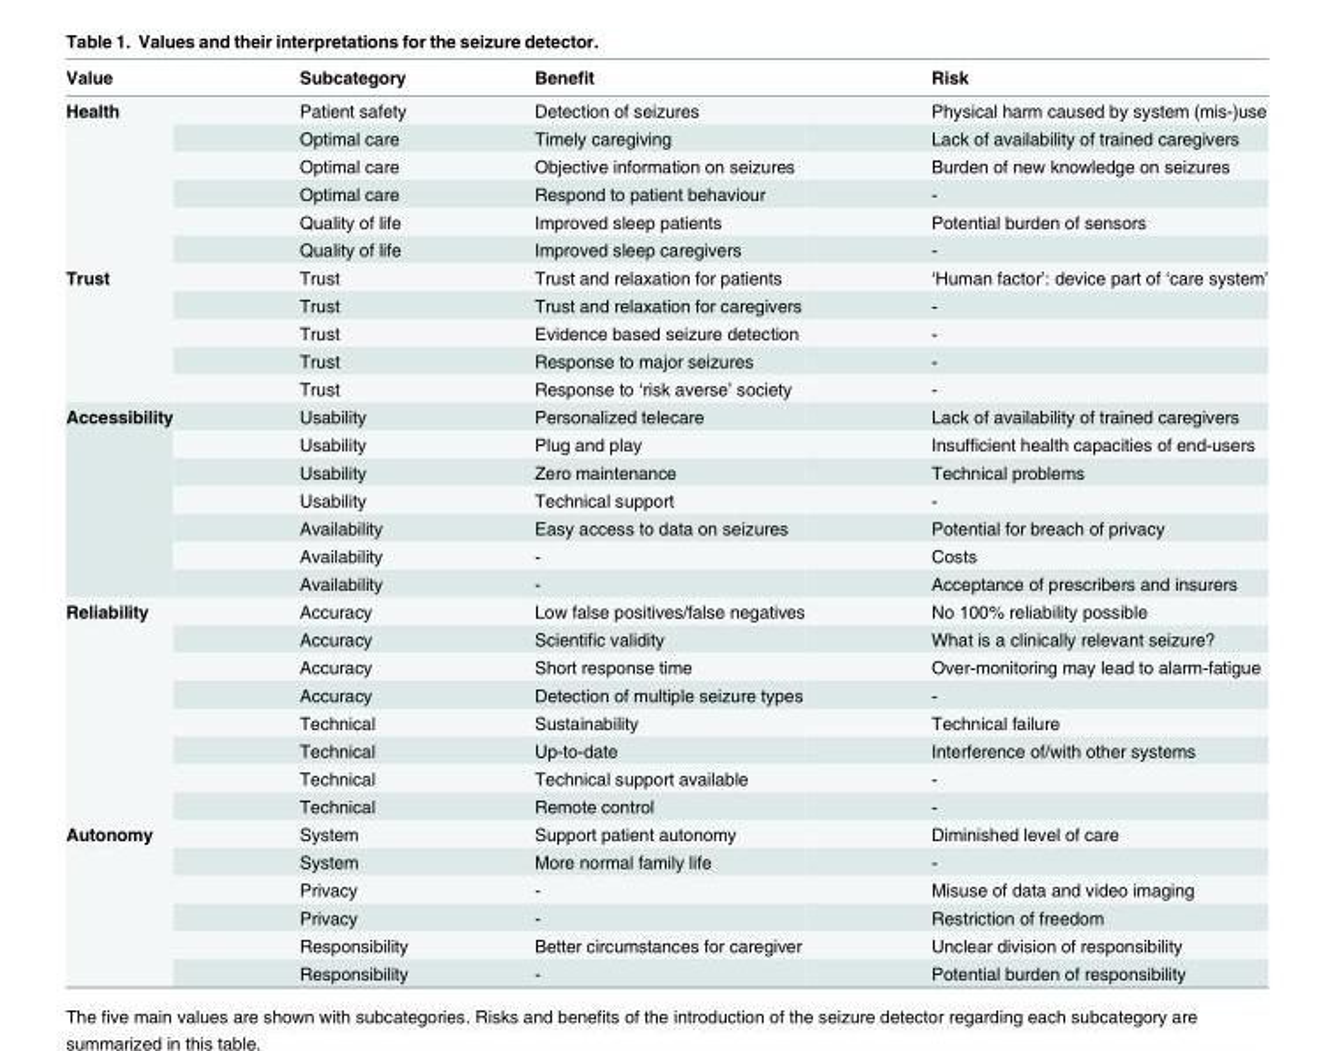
<table><thead><tr><td>Value</td><td>Subcategory</td><td>Benefit</td><td>Risk</td></tr></thead><tbody><tr><td rowspan="6">Health</td><td>Patient safety</td><td>Detection of seizures</td><td>Physical harm caused by system (mis-)use</td></tr><tr><td>Optimal care</td><td>Timely caregiving</td><td>Lack of availability of trained caregivers</td></tr><tr><td>Optimal care</td><td>Objective information on seizures</td><td>Burden of new knowledge on seizures</td></tr><tr><td>Optimal care</td><td>Respond to patient behaviour</td><td>-</td></tr><tr><td>Quality of life</td><td>Improved sleep patients</td><td>Potential burden of sensors</td></tr><tr><td>Quality of life</td><td>Improved sleep caregivers</td><td>-</td></tr><tr><td rowspan="5">Trust</td><td>Trust</td><td>Trust and relaxation for patients</td><td>‘Human factor’: device part of ‘care system’</td></tr><tr><td>Trust</td><td>Trust and relaxation for caregivers</td><td>-</td></tr><tr><td>Trust</td><td>Evidence based seizure detection</td><td>-</td></tr><tr><td>Trust</td><td>Response to major seizures</td><td>-</td></tr><tr><td>Trust</td><td>Response to ‘risk averse’ society</td><td>-</td></tr><tr><td rowspan="7">Accessibility</td><td>Usability</td><td>Personalized telecare</td><td>Lack of availability of trained caregivers</td></tr><tr><td>Usability</td><td>Plug and play</td><td>Insufficient health capacities of end-users</td></tr><tr><td>Usability</td><td>Zero maintenance</td><td>Technical problems</td></tr><tr><td>Usability</td><td>Technical support</td><td>-</td></tr><tr><td>Availability</td><td>Easy access to data on seizures</td><td>Potential for breach of privacy</td></tr><tr><td>Availability</td><td>-</td><td>Costs</td></tr><tr><td>Availability</td><td>-</td><td>Acceptance of prescribers and insurers</td></tr><tr><td rowspan="8">Reliability</td><td>Accuracy</td><td>Low false positives/false negatives</td><td>No 100% reliability possible</td></tr><tr><td>Accuracy</td><td>Scientific validity</td><td>What is a clinically relevant seizure?</td></tr><tr><td>Accuracy</td><td>Short response time</td><td>Over-monitoring may lead to alarm-fatigue</td></tr><tr><td>Accuracy</td><td>Detection of multiple seizure types</td><td>-</td></tr><tr><td>Technical</td><td>Sustainability</td><td>Technical failure</td></tr><tr><td>Technical</td><td>Up-to-date</td><td>Interference of/with other systems</td></tr><tr><td>Technical</td><td>Technical support available</td><td>-</td></tr><tr><td>Technical</td><td>Remote control</td><td>-</td></tr><tr><td rowspan="6">Autonomy</td><td>System</td><td>Support patient autonomy</td><td>Diminished level of care</td></tr><tr><td>System</td><td>More normal family life</td><td>-</td></tr><tr><td>Privacy</td><td>-</td><td>Misuse of data and video imaging</td></tr><tr><td>Privacy</td><td>-</td><td>Restriction of freedom</td></tr><tr><td>Responsibility</td><td>Better circumstances for caregiver</td><td>Unclear division of responsibility</td></tr><tr><td>Responsibility</td><td>-</td><td>Potential burden of responsibility</td></tr></tbody></table>